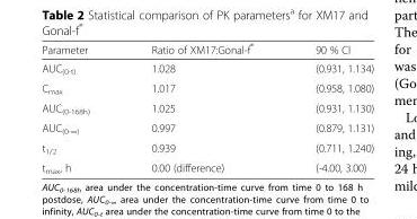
<table><thead><tr><td>Parameter</td><td>Ratio of XM17:Gonal-f<sup>®</sup></td><td>90 % CI</td></tr></thead><tbody><tr><td>AUC<sub>(0-t)</sub></td><td>1.028</td><td>(0.931, 1.134)</td></tr><tr><td>C<sub>max</sub></td><td>1.017</td><td>(0.958, 1.080)</td></tr><tr><td>AUC<sub>(0-168h)</sub></td><td>1.025</td><td>(0.931, 1.130)</td></tr><tr><td>AUC<sub>(0-∞)</sub></td><td>0.997</td><td>(0.879, 1.131)</td></tr><tr><td>t<sub>1/2</sub></td><td>0.939</td><td>(0.711, 1.240)</td></tr><tr><td>t<sub>max</sub>, h</td><td>0.00 (difference)</td><td>(-4.00, 3.00)</td></tr></tbody></table>